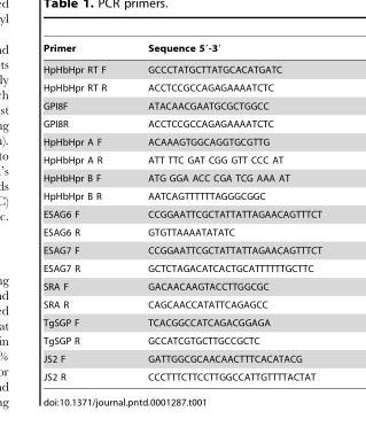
<table><thead><tr><td>Primer</td><td>Sequence 5′-3′</td></tr></thead><tbody><tr><td>HpHbHpr RT F</td><td>GCCCTATGCTTATGCACATGATC</td></tr><tr><td>HpHbHpr RT R</td><td>ACCTCCGCCAGAGAAAATCTC</td></tr><tr><td>GPI8F</td><td>ATACAACGAATGCGCTGGCC</td></tr><tr><td>GPI8R</td><td>ACCTCCGCCAGAGAAAATCTC</td></tr><tr><td>HpHbHpr A F</td><td>ACAAAGTGGCAGGTGCGTTG</td></tr><tr><td>HpHbHpr A R</td><td>ATT TTC GAT CGG GTT CCC AT</td></tr><tr><td>HpHbHpr B F</td><td>ATG GGA ACC CGA TCG AAA AT</td></tr><tr><td>HpHbHpr B R</td><td>AATCAGTTTTTTAGGGCGGC</td></tr><tr><td>ESAG6 F</td><td>CCGGAATTCGCTATTATTAGAACAGTTTCT</td></tr><tr><td>ESAG6 R</td><td>GTGTTAAAATATATC</td></tr><tr><td>ESAG7 F</td><td>CCGGAATTCGCTATTATTAGAACAGTTTCT</td></tr><tr><td>ESAG7 R</td><td>GCTCTAGACATCACTGCATTTTTTGCTTC</td></tr><tr><td>SRA F</td><td>GACAACAAGTACCTTGGCGC</td></tr><tr><td>SRA R</td><td>CAGCAACCATATTCAGAGCC</td></tr><tr><td>TgSGP F</td><td>TCACGGCCATCAGACGGAGA</td></tr><tr><td>TgSGP R</td><td>GCCATCGTGCTTGCCGCTC</td></tr><tr><td>JS2 F</td><td>GATTGGCGCAACAACTTTCACATACG</td></tr><tr><td>JS2 R</td><td>CCCTTTCTTCCTTGGCCATTGTTTTACTAT</td></tr></tbody></table>